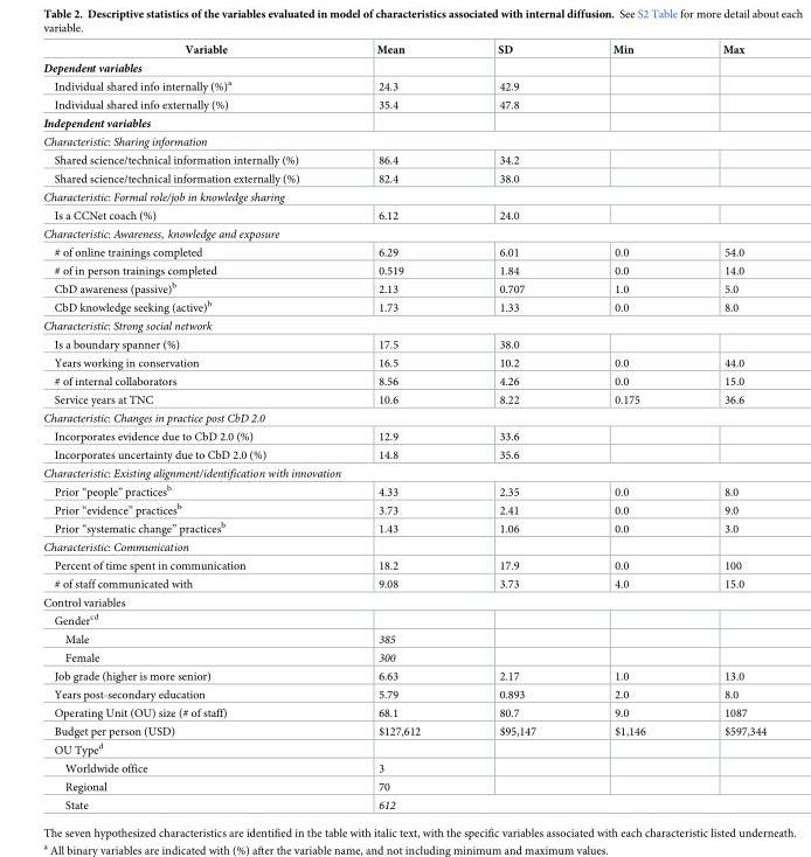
<table><thead><tr><td>Variable</td><td>Mean</td><td>SD</td><td>Min</td><td>Max</td></tr></thead><tbody><tr><td colspan="5">Dependent variables</td></tr><tr><td>Individual shared info internally (%)<sup>a</sup></td><td>24.3</td><td>42.9</td><td></td><td></td></tr><tr><td>Individual shared info externally (%)</td><td>35.4</td><td>47.8</td><td></td><td></td></tr><tr><td colspan="5">Independent variables</td></tr><tr><td colspan="5">Characteristic: Sharing information</td></tr><tr><td>Shared science/technical information internally (%)</td><td>86.4</td><td>34.2</td><td></td><td></td></tr><tr><td>Shared science/technical information externally (%)</td><td>82.4</td><td>38.0</td><td></td><td></td></tr><tr><td colspan="5">Characteristic: Formal role/job in knowledge sharing</td></tr><tr><td>Is a CCNet coach (%)</td><td>6.12</td><td>24.0</td><td></td><td></td></tr><tr><td colspan="5">Characteristic: Awareness, knowledge and exposure</td></tr><tr><td># of online trainings completed</td><td>6.29</td><td>6.01</td><td>0.0</td><td>54.0</td></tr><tr><td># of in person trainings completed</td><td>0.519</td><td>1.84</td><td>0.0</td><td>14.0</td></tr><tr><td>CbD awareness (passive)<sup>b</sup></td><td>2.13</td><td>0.707</td><td>1.0</td><td>5.0</td></tr><tr><td>CbD knowledge seeking (active)<sup>b</sup></td><td>1.73</td><td>1.33</td><td>0.0</td><td>8.0</td></tr><tr><td colspan="5">Characteristic: Strong social network</td></tr><tr><td>Is a boundary spanner (%)</td><td>17.5</td><td>38.0</td><td></td><td></td></tr><tr><td>Years working in conservation</td><td>16.5</td><td>10.2</td><td>0.0</td><td>44.0</td></tr><tr><td># of internal collaborators</td><td>8.56</td><td>4.26</td><td>0.0</td><td>15.0</td></tr><tr><td>Service years at TNC</td><td>10.6</td><td>8.22</td><td>0.175</td><td>36.6</td></tr><tr><td colspan="5">Characteristic: Changes in practice post CbD 2.0</td></tr><tr><td>Incorporates evidence due to CbD 2.0 (%)</td><td>12.9</td><td>33.6</td><td></td><td></td></tr><tr><td>Incorporates uncertainty due to CbD 2.0 (%)</td><td>14.8</td><td>35.6</td><td></td><td></td></tr><tr><td colspan="5">Characteristic: Existing alignment/identification with innovation</td></tr><tr><td>Prior “people” practices<sup>b</sup></td><td>4.33</td><td>2.35</td><td>0.0</td><td>8.0</td></tr><tr><td>Prior “evidence” practices<sup>b</sup></td><td>3.73</td><td>2.41</td><td>0.0</td><td>9.0</td></tr><tr><td>Prior “systematic change” practices<sup>b</sup></td><td>1.43</td><td>1.06</td><td>0.0</td><td>3.0</td></tr><tr><td colspan="5">Characteristic: Communication</td></tr><tr><td>Percent of time spent in communication</td><td>18.2</td><td>17.9</td><td>0.0</td><td>100</td></tr><tr><td># of staff communicated with</td><td>9.08</td><td>3.73</td><td>4.0</td><td>15.0</td></tr><tr><td colspan="5">Control variables</td></tr><tr><td colspan="5">Gender<sup>cd</sup></td></tr><tr><td>Male</td><td>385</td><td></td><td></td><td></td></tr><tr><td>Female</td><td>300</td><td></td><td></td><td></td></tr><tr><td>Job grade (higher is more senior)</td><td>6.63</td><td>2.17</td><td>1.0</td><td>13.0</td></tr><tr><td>Years post-secondary education</td><td>5.79</td><td>0.893</td><td>2.0</td><td>8.0</td></tr><tr><td>Operating Unit (OU) size (# of staff)</td><td>68.1</td><td>80.7</td><td>9.0</td><td>1087</td></tr><tr><td>Budget per person (USD)</td><td>$127,612</td><td>$95,147</td><td>$1,146</td><td>$597,344</td></tr><tr><td colspan="5">OU Type<sup>d</sup></td></tr><tr><td>Worldwide office</td><td>3</td><td></td><td></td><td></td></tr><tr><td>Regional</td><td>70</td><td></td><td></td><td></td></tr><tr><td>State</td><td colspan="4">612</td></tr></tbody></table>